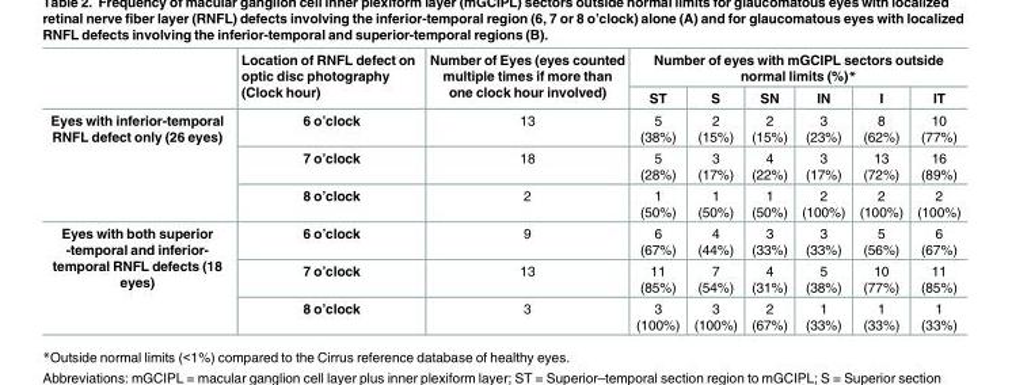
<table><thead><tr><td rowspan="2"></td><td rowspan="2">Location of RNFL defect on optic disc photography (Clock hour)</td><td rowspan="2">Number of Eyes (eyes counted multiple times if more than one clock hour involved)</td><td colspan="6">Number of eyes with mGCIPL sectors outside normal limits (%)*</td></tr><tr><td>ST</td><td>S</td><td>SN</td><td>IN</td><td>I</td><td>IT</td></tr></thead><tbody><tr><td rowspan="3">Eyes with inferior-temporal RNFL defect only (26 eyes)</td><td>6 o’clock</td><td>13</td><td>5 (38%)</td><td>2 (15%)</td><td>2 (15%)</td><td>3 (23%)</td><td>8 (62%)</td><td>10 (77%)</td></tr><tr><td>7 o’clock</td><td>18</td><td>5 (28%)</td><td>3 (17%)</td><td>4 (22%)</td><td>3 (17%)</td><td>13 (72%)</td><td>16 (89%)</td></tr><tr><td>8 o’clock</td><td>2</td><td>1 (50%)</td><td>1 (50%)</td><td>1 (50%)</td><td>2 (100%)</td><td>2 (100%)</td><td>2 (100%)</td></tr><tr><td rowspan="3">Eyes with both superior -temporal and inferior- temporal RNFL defects (18 eyes)</td><td>6 o’clock</td><td>9</td><td>6 (67%)</td><td>4 (44%)</td><td>3 (33%)</td><td>3 (33%)</td><td>5 (56%)</td><td>6 (67%)</td></tr><tr><td>7 o’clock</td><td>13</td><td>11 (85%)</td><td>7 (54%)</td><td>4 (31%)</td><td>5 (38%)</td><td>10 (77%)</td><td>11 (85%)</td></tr><tr><td>8 o’clock</td><td>3</td><td>3 (100%)</td><td>3 (100%)</td><td>2 (67%)</td><td>1 (33%)</td><td>1 (33%)</td><td>1 (33%)</td></tr></tbody></table>